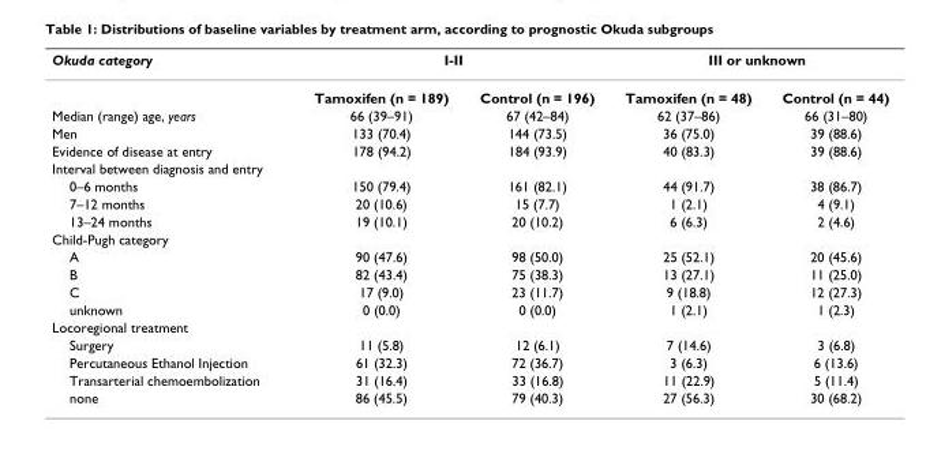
<table><thead><tr><td rowspan="2">Okuda category</td><td colspan="2">I-II</td><td colspan="2">III or unknown</td></tr><tr><td>Tamoxifen (n = 189)</td><td>Control (n = 196)</td><td>Tamoxifen (n = 48)</td><td>Control (n = 44)</td></tr></thead><tbody><tr><td>Median (range) age, years</td><td>66 (39–91)</td><td>67 (42–84)</td><td>62 (37–86)</td><td>66 (31–80)</td></tr><tr><td>Men</td><td>133 (70.4)</td><td>144 (73.5)</td><td>36 (75.0)</td><td>39 (88.6)</td></tr><tr><td>Evidence of disease at entry</td><td>178 (94.2)</td><td>184 (93.9)</td><td>40 (83.3)</td><td>39 (88.6)</td></tr><tr><td colspan="5">Interval between diagnosis and entry</td></tr><tr><td>0–6 months</td><td>150 (79.4)</td><td>161 (82.1)</td><td>44 (91.7)</td><td>38 (86.7)</td></tr><tr><td>7–12 months</td><td>20 (10.6)</td><td>15 (7.7)</td><td>1 (2.1)</td><td>4 (9.1)</td></tr><tr><td>13–24 months</td><td>19 (10.1)</td><td>20 (10.2)</td><td>6 (6.3)</td><td>2 (4.6)</td></tr><tr><td colspan="5">Child-Pugh category</td></tr><tr><td>A</td><td>90 (47.6)</td><td>98 (50.0)</td><td>25 (52.1)</td><td>20 (45.6)</td></tr><tr><td>B</td><td>82 (43.4)</td><td>75 (38.3)</td><td>13 (27.1)</td><td>11 (25.0)</td></tr><tr><td>C</td><td>17 (9.0)</td><td>23 (11.7)</td><td>9 (18.8)</td><td>12 (27.3)</td></tr><tr><td>unknown</td><td>0 (0.0)</td><td>0 (0.0)</td><td>1 (2.1)</td><td>1 (2.3)</td></tr><tr><td colspan="5">Locoregional treatment</td></tr><tr><td>Surgery</td><td>11 (5.8)</td><td>12 (6.1)</td><td>7 (14.6)</td><td>3 (6.8)</td></tr><tr><td>Percutaneous Ethanol Injection</td><td>61 (32.3)</td><td>72 (36.7)</td><td>3 (6.3)</td><td>6 (13.6)</td></tr><tr><td>Transarterial chemoembolization</td><td>31 (16.4)</td><td>33 (16.8)</td><td>11 (22.9)</td><td>5 (11.4)</td></tr><tr><td>none</td><td>86 (45.5)</td><td>79 (40.3)</td><td>27 (56.3)</td><td>30 (68.2)</td></tr></tbody></table>